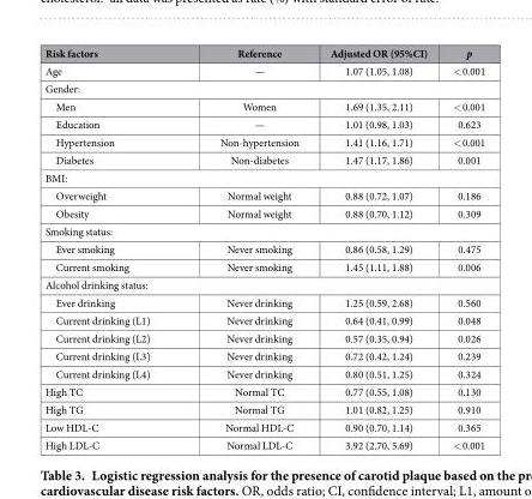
<table><thead><tr><td>Risk factors</td><td>Reference</td><td>Adjusted OR (95%CI)</td><td>p</td></tr></thead><tbody><tr><td>Age</td><td>—</td><td>1.07 (1.05, 1.08)</td><td>&lt; 0.001</td></tr><tr><td colspan="4">Gender:</td></tr><tr><td>Men</td><td>Women</td><td>1.69 (1.35, 2.11)</td><td>&lt; 0.001</td></tr><tr><td>Education</td><td>—</td><td>1.01 (0.98, 1.03)</td><td>0.623</td></tr><tr><td>Hypertension</td><td>Non-hypertension</td><td>1.41 (1.16, 1.71)</td><td>&lt; 0.001</td></tr><tr><td>Diabetes</td><td>Non-diabetes</td><td>1.47 (1.17, 1.86)</td><td>0.001</td></tr><tr><td colspan="4">BMI:</td></tr><tr><td>Overweight</td><td>Normal weight</td><td>0.88 (0.72, 1.07)</td><td>0.186</td></tr><tr><td>Obesity</td><td>Normal weight</td><td>0.88 (0.70, 1.12)</td><td>0.309</td></tr><tr><td colspan="4">Smoking status:</td></tr><tr><td>Ever smoking</td><td>Never smoking</td><td>0.86 (0.58, 1.29)</td><td>0.475</td></tr><tr><td>Current smoking</td><td>Never smoking</td><td>1.45 (1.11, 1.88)</td><td>0.006</td></tr><tr><td colspan="4">Alcohol drinking status:</td></tr><tr><td>Ever drinking</td><td>Never drinking</td><td>1.25 (0.59, 2.68)</td><td>0.560</td></tr><tr><td>Current drinking (L1)</td><td>Never drinking</td><td>0.64 (0.41, 0.99)</td><td>0.048</td></tr><tr><td>Current drinking (L2)</td><td>Never drinking</td><td>0.57 (0.35, 0.94)</td><td>0.026</td></tr><tr><td>Current drinking (L3)</td><td>Never drinking</td><td>0.72 (0.42, 1.24)</td><td>0.239</td></tr><tr><td>Current drinking (L4)</td><td>Never drinking</td><td>0.80 (0.51, 1.25)</td><td>0.324</td></tr><tr><td>High TC</td><td>Normal TC</td><td>0.77 (0.55, 1.08)</td><td>0.130</td></tr><tr><td>High TG</td><td>Normal TG</td><td>1.01 (0.82, 1.25)</td><td>0.910</td></tr><tr><td>Low HDL-C</td><td>Normal HDL-C</td><td>0.90 (0.70, 1.14)</td><td>0.365</td></tr><tr><td>High LDL-C</td><td>Normal LDL-C</td><td>3.92 (2.70, 5.69)</td><td>&lt; 0.001</td></tr></tbody></table>